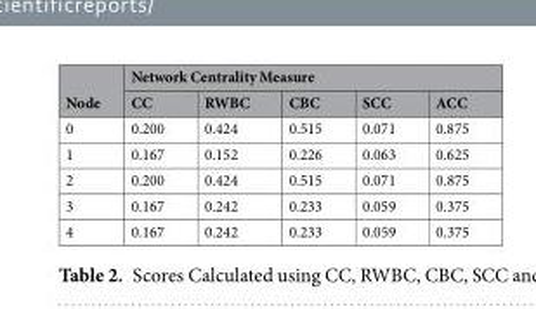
<table><thead><tr><td rowspan="2">Node</td><td colspan="5">Network Centrality Measure</td></tr><tr><td>CC</td><td>RWBC</td><td>CBC</td><td>SCC</td><td>ACC</td></tr></thead><tbody><tr><td>0</td><td>0.200</td><td>0.424</td><td>0.515</td><td>0.071</td><td>0.875</td></tr><tr><td>1</td><td>0.167</td><td>0.152</td><td>0.226</td><td>0.063</td><td>0.625</td></tr><tr><td>2</td><td>0.200</td><td>0.424</td><td>0.515</td><td>0.071</td><td>0.875</td></tr><tr><td>3</td><td>0.167</td><td>0.242</td><td>0.233</td><td>0.059</td><td>0.375</td></tr><tr><td>4</td><td>0.167</td><td>0.242</td><td>0.233</td><td>0.059</td><td>0.375</td></tr></tbody></table>